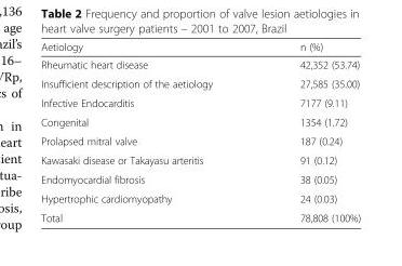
<table><thead><tr><td>Aetiology</td><td>n (%)</td></tr></thead><tbody><tr><td>Rheumatic heart disease</td><td>42,352 (53.74)</td></tr><tr><td>Insufficient description of the aetiology</td><td>27,585 (35.00)</td></tr><tr><td>Infective Endocarditis</td><td>7177 (9.11)</td></tr><tr><td>Congenital</td><td>1354 (1.72)</td></tr><tr><td>Prolapsed mitral valve</td><td>187 (0.24)</td></tr><tr><td>Kawasaki disease or Takayasu arteritis</td><td>91 (0.12)</td></tr><tr><td>Endomyocardial fibrosis</td><td>38 (0.05)</td></tr><tr><td>Hypertrophic cardiomyopathy</td><td>24 (0.03)</td></tr><tr><td>Total</td><td>78,808 (100%)</td></tr></tbody></table>